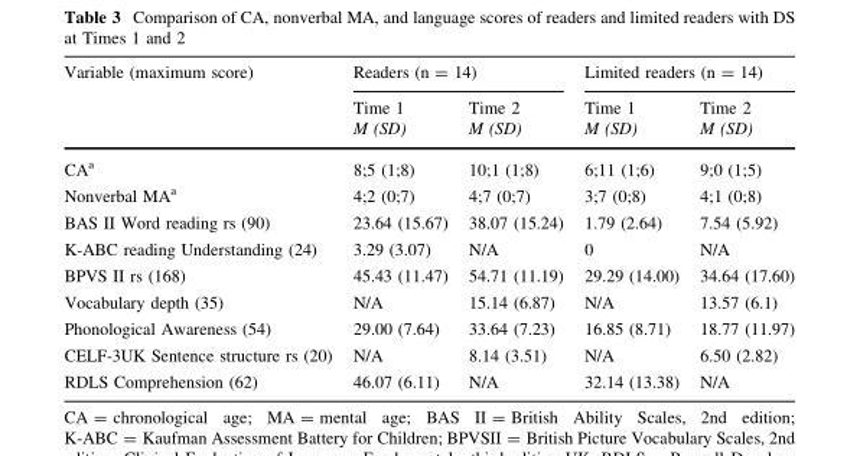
<table><thead><tr><td rowspan="3">Variable (maximum score)</td><td colspan="2">Readers (n = 14)</td><td colspan="2">Limited readers (n = 14)</td></tr><tr><td rowspan="2">Time 1 M (SD)</td><td rowspan="2">Time 2 M (SD)</td><td rowspan="2">Time 1 M (SD)</td><td rowspan="2">Time 2 M (SD)</td></tr><tr></tr></thead><tbody><tr><td>CA<sup>a</sup></td><td>8;5 (1;8)</td><td>10;1 (1;8)</td><td>6;11 (1;6)</td><td>9;0 (1;5)</td></tr><tr><td>Nonverbal MA<sup>a</sup></td><td>4;2 (0;7)</td><td>4;7 (0;7)</td><td>3;7 (0;8)</td><td>4;1 (0;8)</td></tr><tr><td>BAS II Word reading rs (90)</td><td>23.64 (15.67)</td><td>38.07 (15.24)</td><td>1.79 (2.64)</td><td>7.54 (5.92)</td></tr><tr><td>K-ABC reading Understanding (24)</td><td>3.29 (3.07)</td><td>N/A</td><td>0</td><td>N/A</td></tr><tr><td>BPVS II rs (168)</td><td>45.43 (11.47)</td><td>54.71 (11.19)</td><td>29.29 (14.00)</td><td>34.64 (17.60)</td></tr><tr><td>Vocabulary depth (35)</td><td>N/A</td><td>15.14 (6.87)</td><td>N/A</td><td>13.57 (6.1)</td></tr><tr><td>Phonological Awareness (54)</td><td>29.00 (7.64)</td><td>33.64 (7.23)</td><td>16.85 (8.71)</td><td>18.77 (11.97)</td></tr><tr><td>CELF-3UK Sentence structure rs (20)</td><td>N/A</td><td>8.14 (3.51)</td><td>N/A</td><td>6.50 (2.82)</td></tr><tr><td>RDLS Comprehension (62)</td><td>46.07 (6.11)</td><td>N/A</td><td>32.14 (13.38)</td><td>N/A</td></tr></tbody></table>